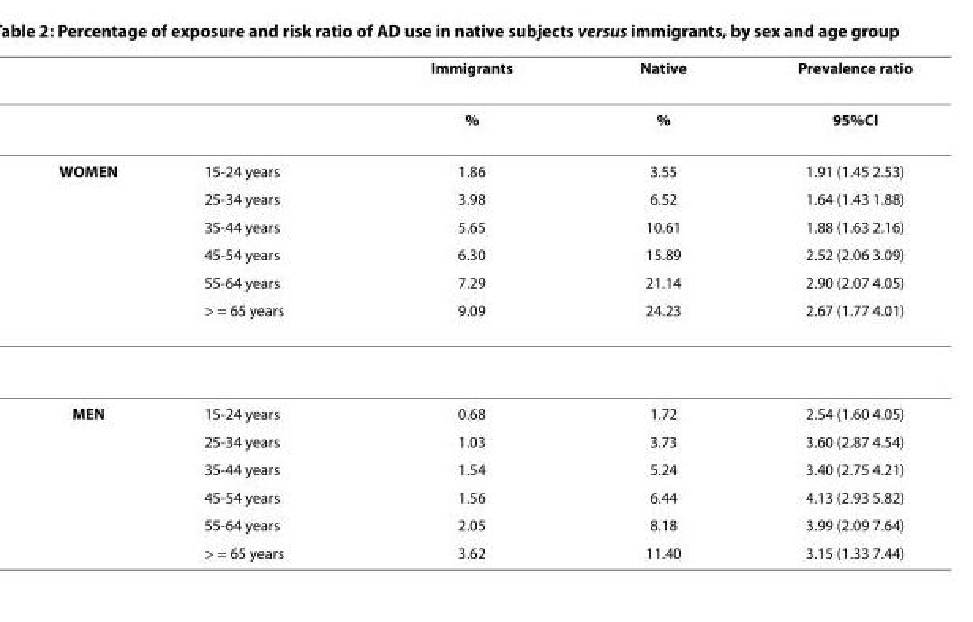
<table><thead><tr><td></td><td></td><td>Immigrants</td><td>Native</td><td>Prevalence ratio</td></tr></thead><tbody><tr><td></td><td></td><td>%</td><td>%</td><td>95%CI</td></tr><tr><td rowspan="6">WOMEN</td><td>15-24 years</td><td>1.86</td><td>3.55</td><td>1.91 (1.45 2.53)</td></tr><tr><td>25-34 years</td><td>3.98</td><td>6.52</td><td>1.64 (1.43 1.88)</td></tr><tr><td>35-44 years</td><td>5.65</td><td>10.61</td><td>1.88 (1.63 2.16)</td></tr><tr><td>45-54 years</td><td>6.30</td><td>15.89</td><td>2.52 (2.06 3.09)</td></tr><tr><td>55-64 years</td><td>7.29</td><td>21.14</td><td>2.90 (2.07 4.05)</td></tr><tr><td>&gt; = 65 years</td><td>9.09</td><td>24.23</td><td>2.67 (1.77 4.01)</td></tr><tr><td rowspan="6">MEN</td><td>15-24 years</td><td>0.68</td><td>1.72</td><td>2.54 (1.60 4.05)</td></tr><tr><td>25-34 years</td><td>1.03</td><td>3.73</td><td>3.60 (2.87 4.54)</td></tr><tr><td>35-44 years</td><td>1.54</td><td>5.24</td><td>3.40 (2.75 4.21)</td></tr><tr><td>45-54 years</td><td>1.56</td><td>6.44</td><td>4.13 (2.93 5.82)</td></tr><tr><td>55-64 years</td><td>2.05</td><td>8.18</td><td>3.99 (2.09 7.64)</td></tr><tr><td>&gt; = 65 years</td><td>3.62</td><td>11.40</td><td>3.15 (1.33 7.44)</td></tr></tbody></table>